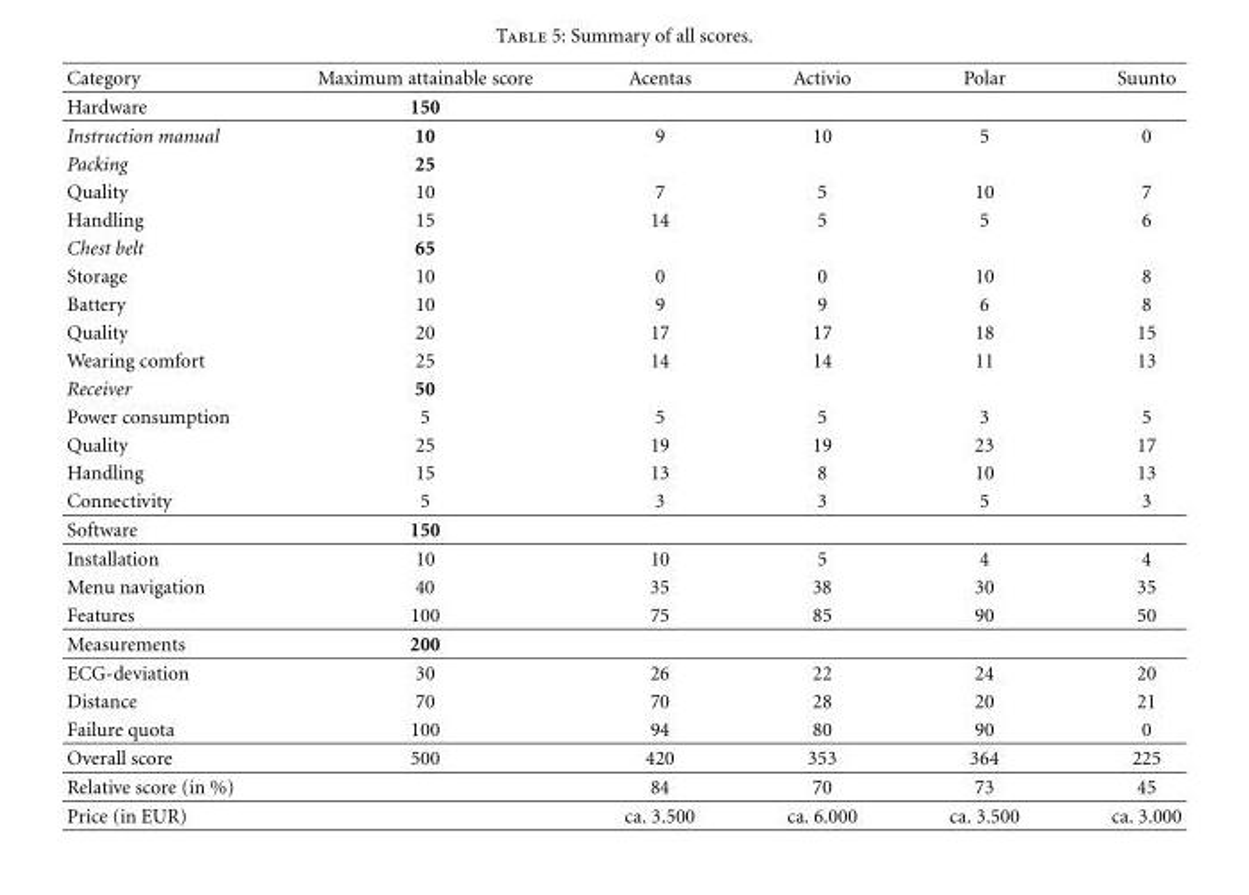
<table><thead><tr><td>Category</td><td>Maximum attainable score</td><td>Acentas</td><td>Activio</td><td>Polar</td><td>Suunto</td></tr></thead><tbody><tr><td>Hardware</td><td>150</td><td></td><td></td><td></td><td></td></tr><tr><td>Instruction manual</td><td>10</td><td>9</td><td>10</td><td>5</td><td>0</td></tr><tr><td>Packing</td><td>25</td><td></td><td></td><td></td><td></td></tr><tr><td>Quality</td><td>10</td><td>7</td><td>5</td><td>10</td><td>7</td></tr><tr><td>Handling</td><td>15</td><td>14</td><td>5</td><td>5</td><td>6</td></tr><tr><td>Chest belt</td><td>65</td><td></td><td></td><td></td><td></td></tr><tr><td>Storage</td><td>10</td><td>0</td><td>0</td><td>10</td><td>8</td></tr><tr><td>Battery</td><td>10</td><td>9</td><td>9</td><td>6</td><td>8</td></tr><tr><td>Quality</td><td>20</td><td>17</td><td>17</td><td>18</td><td>15</td></tr><tr><td>Wearing comfort</td><td>25</td><td>14</td><td>14</td><td>11</td><td>13</td></tr><tr><td>Receiver</td><td>50</td><td></td><td></td><td></td><td></td></tr><tr><td>Power consumption</td><td>5</td><td>5</td><td>5</td><td>3</td><td>5</td></tr><tr><td>Quality</td><td>25</td><td>19</td><td>19</td><td>23</td><td>17</td></tr><tr><td>Handling</td><td>15</td><td>13</td><td>8</td><td>10</td><td>13</td></tr><tr><td>Connectivity</td><td>5</td><td>3</td><td>3</td><td>5</td><td>3</td></tr><tr><td>Software</td><td>150</td><td></td><td></td><td></td><td></td></tr><tr><td>Installation</td><td>10</td><td>10</td><td>5</td><td>4</td><td>4</td></tr><tr><td>Menu navigation</td><td>40</td><td>35</td><td>38</td><td>30</td><td>35</td></tr><tr><td>Features</td><td>100</td><td>75</td><td>85</td><td>90</td><td>50</td></tr><tr><td>Measurements</td><td>200</td><td></td><td></td><td></td><td></td></tr><tr><td>ECG-deviation</td><td>30</td><td>26</td><td>22</td><td>24</td><td>20</td></tr><tr><td>Distance</td><td>70</td><td>70</td><td>28</td><td>20</td><td>21</td></tr><tr><td>Failure quota</td><td>100</td><td>94</td><td>80</td><td>90</td><td>0</td></tr><tr><td>Overall score</td><td>500</td><td>420</td><td>353</td><td>364</td><td>225</td></tr><tr><td>Relative score (in %)</td><td></td><td>84</td><td>70</td><td>73</td><td>45</td></tr><tr><td>Price (in EUR)</td><td></td><td>ca. 3.500</td><td>ca. 6.000</td><td>ca. 3.500</td><td>ca. 3.000</td></tr></tbody></table>